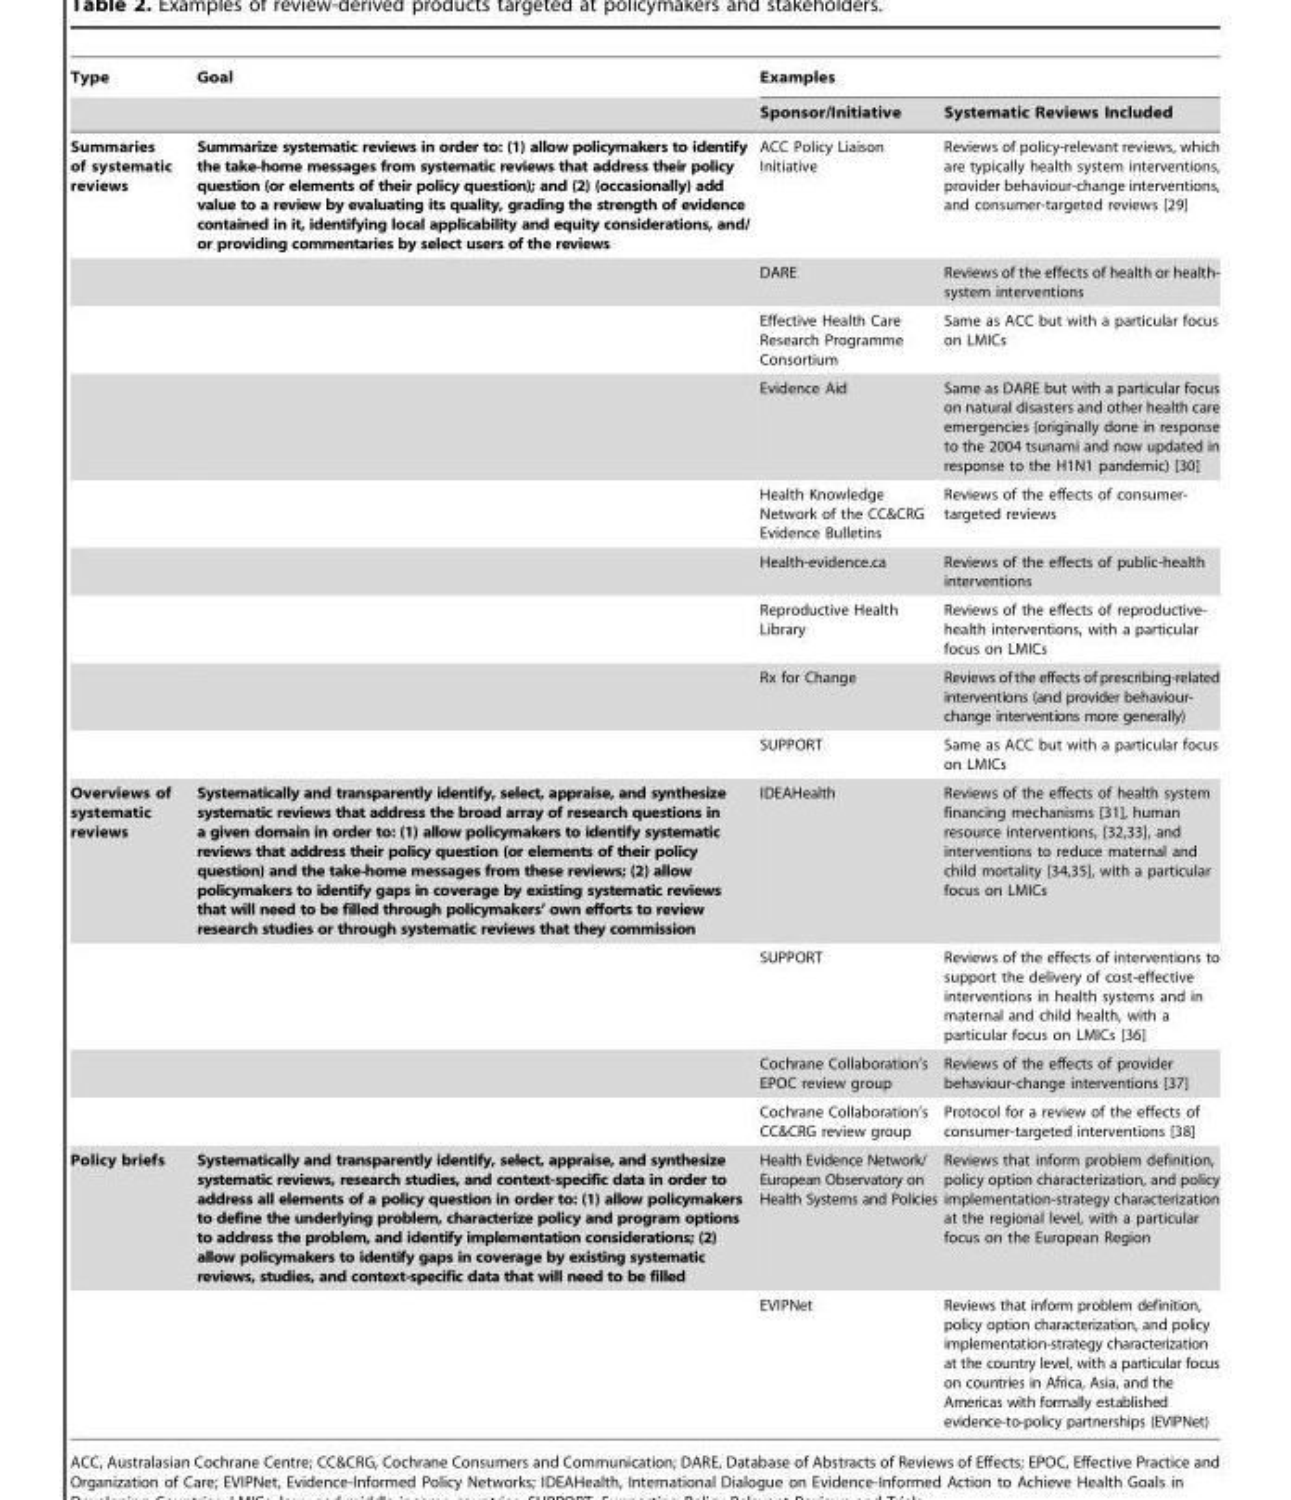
<table><thead><tr><td rowspan="2">Type</td><td rowspan="2">Goal</td><td colspan="2">Examples</td></tr><tr><td>Sponsor/Initiative</td><td>Systematic Reviews Included</td></tr></thead><tbody><tr><td rowspan="9">Summaries of systematic reviews</td><td>Summarize systematic reviews in order to: (1) allow policymakers to identify the take-home messages from systematic reviews that address their policy question (or elements of their policy question); and (2) (occasionally) add value to a review by evaluating its quality, grading the strength of evidence contained in it, identifying local applicability and equity considerations, and/ or providing commentaries by select users of the reviews</td><td>ACC Policy Liaison Initiative</td><td>Reviews of policy-relevant reviews, which are typically health system interventions, provider behaviour-change interventions, and consumer-targeted reviews [29]</td></tr><tr><td></td><td>DARE</td><td>Reviews of the effects of health or health- system interventions</td></tr><tr><td></td><td>Effective Health Care Research Programme Consortium</td><td>Same as ACC but with a particular focus on LMICs</td></tr><tr><td></td><td>Evidence Aid</td><td>Same as DARE but with a particular focus on natural disasters and other health care emergencies (originally done in response to the 2004 tsunami and now updated in response to the H1N1 pandemic) [30]</td></tr><tr><td></td><td>Health Knowledge Network of the CC&amp;CRG Evidence Bulletins</td><td>Reviews of the effects of consumer- targeted reviews</td></tr><tr><td></td><td>Health-evidence.ca</td><td>Reviews of the effects of public-health interventions</td></tr><tr><td></td><td>Reproductive Health Library</td><td>Reviews of the effects of reproductive- health interventions, with a particular focus on LMICs</td></tr><tr><td></td><td>Rx for Change</td><td>Reviews of the effects of prescribing-related interventions (and provider behaviour- change interventions more generally)</td></tr><tr><td></td><td>SUPPORT</td><td>Same as ACC but with a particular focus on LMICs</td></tr><tr><td rowspan="4">Overviews of systematic reviews</td><td>Systematically and transparently identify, select, appraise, and synthesize systematic reviews that address the broad array of research questions in a given domain in order to: (1) allow policymakers to identify systematic reviews that address their policy question (or elements of their policy question) and the take-home messages from these reviews; (2) allow policymakers to identify gaps in coverage by existing systematic reviews that will need to be filled through policymakers’ own efforts to review research studies or through systematic reviews that they commission</td><td>IDEAHealth</td><td>Reviews of the effects of health system financing mechanisms [31], human resource interventions, [32,33], and interventions to reduce maternal and child mortality [34,35], with a particular focus on LMICs</td></tr><tr><td></td><td>SUPPORT</td><td>Reviews of the effects of interventions to support the delivery of cost-effective interventions in health systems and in maternal and child health, with a particular focus on LMICs [36]</td></tr><tr><td></td><td>Cochrane Collaboration’s EPOC review group</td><td>Reviews of the effects of provider behaviour-change interventions [37]</td></tr><tr><td></td><td>Cochrane Collaboration’s CC&amp;CRG review group</td><td>Protocol for a review of the effects of consumer-targeted interventions [38]</td></tr><tr><td rowspan="2">Policy briefs</td><td>Systematically and transparently identify, select, appraise, and synthesize systematic reviews, research studies, and context-specific data in order to address all elements of a policy question in order to: (1) allow policymakers to define the underlying problem, characterize policy and program options to address the problem, and identify implementation considerations; (2) allow policymakers to identify gaps in coverage by existing systematic reviews, studies, and context-specific data that will need to be filled</td><td>Health Evidence Network/ European Observatory on Health Systems and Policies</td><td>Reviews that inform problem definition, policy option characterization, and policy implementation-strategy characterization at the regional level, with a particular focus on the European Region</td></tr><tr><td></td><td>EVIPNet</td><td>Reviews that inform problem definition, policy option characterization, and policy implementation-strategy characterization at the country level, with a particular focus on countries in Africa, Asia, and the Americas with formally established evidence-to-policy partnerships (EVIPNet)</td></tr></tbody></table>